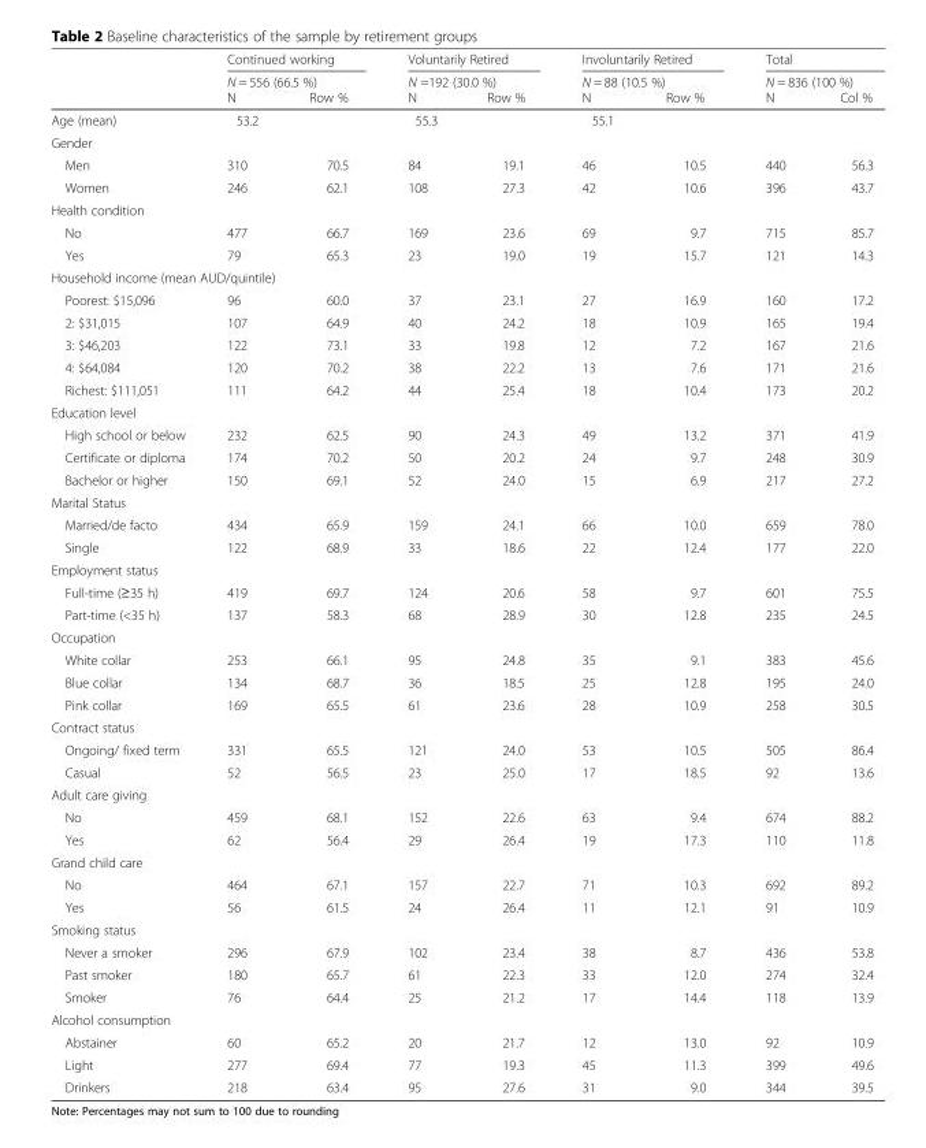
<table><thead><tr><td rowspan="3"></td><td rowspan="2" colspan="2">Continued working N = 556 (66.5 %)</td><td rowspan="2" colspan="2">Voluntarily Retired N =192 (30.0 %)</td><td rowspan="2" colspan="2">Involuntarily Retired N = 88 (10.5 %)</td><td rowspan="2" colspan="2">Total N = 836 (100 %)</td></tr><tr></tr><tr><td>N</td><td>Row %</td><td>N</td><td>Row %</td><td>N</td><td>Row %</td><td>N</td><td>Col %</td></tr></thead><tbody><tr><td>Age (mean)</td><td>53.2</td><td></td><td>55.3</td><td></td><td>55.1</td><td></td><td></td><td></td></tr><tr><td colspan="9">Gender</td></tr><tr><td>Men</td><td>310</td><td>70.5</td><td>84</td><td>19.1</td><td>46</td><td>10.5</td><td>440</td><td>56.3</td></tr><tr><td>Women</td><td>246</td><td>62.1</td><td>108</td><td>27.3</td><td>42</td><td>10.6</td><td>396</td><td>43.7</td></tr><tr><td colspan="9">Health condition</td></tr><tr><td>No</td><td>477</td><td>66.7</td><td>169</td><td>23.6</td><td>69</td><td>9.7</td><td>715</td><td>85.7</td></tr><tr><td>Yes</td><td>79</td><td>65.3</td><td>23</td><td>19.0</td><td>19</td><td>15.7</td><td>121</td><td>14.3</td></tr><tr><td colspan="9">Household income (mean AUD/quintile)</td></tr><tr><td>Poorest: $15,096</td><td>96</td><td>60.0</td><td>37</td><td>23.1</td><td>27</td><td>16.9</td><td>160</td><td>17.2</td></tr><tr><td>2: $31,015</td><td>107</td><td>64.9</td><td>40</td><td>24.2</td><td>18</td><td>10.9</td><td>165</td><td>19.4</td></tr><tr><td>3: $46,203</td><td>122</td><td>73.1</td><td>33</td><td>19.8</td><td>12</td><td>7.2</td><td>167</td><td>21.6</td></tr><tr><td>4: $64,084</td><td>120</td><td>70.2</td><td>38</td><td>22.2</td><td>13</td><td>7.6</td><td>171</td><td>21.6</td></tr><tr><td>Richest: $111,051</td><td>111</td><td>64.2</td><td>44</td><td>25.4</td><td>18</td><td>10.4</td><td>173</td><td>20.2</td></tr><tr><td colspan="9">Education level</td></tr><tr><td>High school or below</td><td>232</td><td>62.5</td><td>90</td><td>24.3</td><td>49</td><td>13.2</td><td>371</td><td>41.9</td></tr><tr><td>Certificate or diploma</td><td>174</td><td>70.2</td><td>50</td><td>20.2</td><td>24</td><td>9.7</td><td>248</td><td>30.9</td></tr><tr><td>Bachelor or higher</td><td>150</td><td>69.1</td><td>52</td><td>24.0</td><td>15</td><td>6.9</td><td>217</td><td>27.2</td></tr><tr><td colspan="9">Marital Status</td></tr><tr><td>Married/de facto</td><td>434</td><td>65.9</td><td>159</td><td>24.1</td><td>66</td><td>10.0</td><td>659</td><td>78.0</td></tr><tr><td>Single</td><td>122</td><td>68.9</td><td>33</td><td>18.6</td><td>22</td><td>12.4</td><td>177</td><td>22.0</td></tr><tr><td colspan="9">Employment status</td></tr><tr><td>Full-time (≥35 h)</td><td>419</td><td>69.7</td><td>124</td><td>20.6</td><td>58</td><td>9.7</td><td>601</td><td>75.5</td></tr><tr><td>Part-time (&lt;35 h)</td><td>137</td><td>58.3</td><td>68</td><td>28.9</td><td>30</td><td>12.8</td><td>235</td><td>24.5</td></tr><tr><td colspan="9">Occupation</td></tr><tr><td>White collar</td><td>253</td><td>66.1</td><td>95</td><td>24.8</td><td>35</td><td>9.1</td><td>383</td><td>45.6</td></tr><tr><td>Blue collar</td><td>134</td><td>68.7</td><td>36</td><td>18.5</td><td>25</td><td>12.8</td><td>195</td><td>24.0</td></tr><tr><td>Pink collar</td><td>169</td><td>65.5</td><td>61</td><td>23.6</td><td>28</td><td>10.9</td><td>258</td><td>30.5</td></tr><tr><td colspan="9">Contract status</td></tr><tr><td>Ongoing/ fixed term</td><td>331</td><td>65.5</td><td>121</td><td>24.0</td><td>53</td><td>10.5</td><td>505</td><td>86.4</td></tr><tr><td>Casual</td><td>52</td><td>56.5</td><td>23</td><td>25.0</td><td>17</td><td>18.5</td><td>92</td><td>13.6</td></tr><tr><td colspan="9">Adult care giving</td></tr><tr><td>No</td><td>459</td><td>68.1</td><td>152</td><td>22.6</td><td>63</td><td>9.4</td><td>674</td><td>88.2</td></tr><tr><td>Yes</td><td>62</td><td>56.4</td><td>29</td><td>26.4</td><td>19</td><td>17.3</td><td>110</td><td>11.8</td></tr><tr><td colspan="9">Grand child care</td></tr><tr><td>No</td><td>464</td><td>67.1</td><td>157</td><td>22.7</td><td>71</td><td>10.3</td><td>692</td><td>89.2</td></tr><tr><td>Yes</td><td>56</td><td>61.5</td><td>24</td><td>26.4</td><td>11</td><td>12.1</td><td>91</td><td>10.9</td></tr><tr><td colspan="9">Smoking status</td></tr><tr><td>Never a smoker</td><td>296</td><td>67.9</td><td>102</td><td>23.4</td><td>38</td><td>8.7</td><td>436</td><td>53.8</td></tr><tr><td>Past smoker</td><td>180</td><td>65.7</td><td>61</td><td>22.3</td><td>33</td><td>12.0</td><td>274</td><td>32.4</td></tr><tr><td>Smoker</td><td>76</td><td>64.4</td><td>25</td><td>21.2</td><td>17</td><td>14.4</td><td>118</td><td>13.9</td></tr><tr><td colspan="9">Alcohol consumption</td></tr><tr><td>Abstainer</td><td>60</td><td>65.2</td><td>20</td><td>21.7</td><td>12</td><td>13.0</td><td>92</td><td>10.9</td></tr><tr><td>Light</td><td>277</td><td>69.4</td><td>77</td><td>19.3</td><td>45</td><td>11.3</td><td>399</td><td>49.6</td></tr><tr><td>Drinkers</td><td>218</td><td>63.4</td><td>95</td><td>27.6</td><td>31</td><td>9.0</td><td>344</td><td>39.5</td></tr></tbody></table>